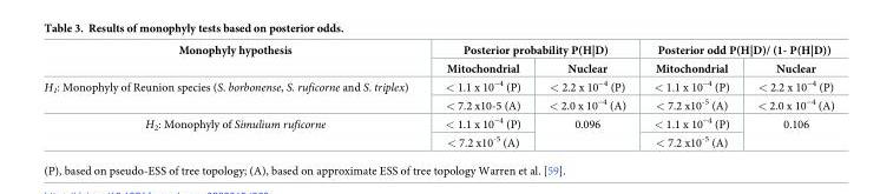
<table><thead><tr><td rowspan="2">Monophyly hypothesis</td><td colspan="2">Posterior probability P(H|D)</td><td colspan="2">Posterior odd P(H|D)/ (1- P(H|D))</td></tr><tr><td>Mitochondrial</td><td>Nuclear</td><td>Mitochondrial</td><td>Nuclear</td></tr></thead><tbody><tr><td rowspan="2">H<sub>1</sub>: Monophyly of Reunion species (S. borbonense, S. ruficorne and S. triplex)</td><td>&lt; 1.1 x 10<sup>−4</sup> (P)</td><td>&lt; 2.2 x 10<sup>−4</sup> (P)</td><td>&lt; 1.1 x 10<sup>−4</sup> (P)</td><td>&lt; 2.2 x 10<sup>−4</sup> (P)</td></tr><tr><td>&lt; 7.2 x10-5 (A)</td><td>&lt; 2.0 x 10<sup>−4</sup> (A)</td><td>&lt; 7.2 x10<sup>-5</sup> (A)</td><td>&lt; 2.0 x 10<sup>−4</sup> (A)</td></tr><tr><td rowspan="2">H<sub>2</sub>: Monophyly of Simulium ruficorne</td><td>&lt; 1.1 x 10<sup>−4</sup> (P)</td><td rowspan="2">0.096</td><td>&lt; 1.1 x 10<sup>−4</sup> (P)</td><td rowspan="2">0.106</td></tr><tr><td>&lt; 7.2 x10<sup>-5</sup> (A)</td><td>&lt; 7.2 x10<sup>-5</sup> (A)</td></tr></tbody></table>